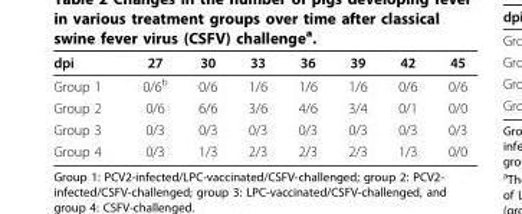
<table><thead><tr><td>dpi</td><td>27</td><td>30</td><td>33</td><td>36</td><td>39</td><td>42</td><td>45</td></tr></thead><tbody><tr><td>Group 1</td><td>0/6<sup>b</sup></td><td>0/6</td><td>1/6</td><td>1/6</td><td>1/6</td><td>0/6</td><td>0/6</td></tr><tr><td>Group 2</td><td>0/6</td><td>6/6</td><td>3/6</td><td>4/6</td><td>3/4</td><td>0/1</td><td>0/0</td></tr><tr><td>Group 3</td><td>0/3</td><td>0/3</td><td>0/3</td><td>0/3</td><td>0/3</td><td>0/3</td><td>0/3</td></tr><tr><td>Group 4</td><td>0/3</td><td>1/3</td><td>2/3</td><td>2/3</td><td>2/3</td><td>1/3</td><td>0/0</td></tr></tbody></table>